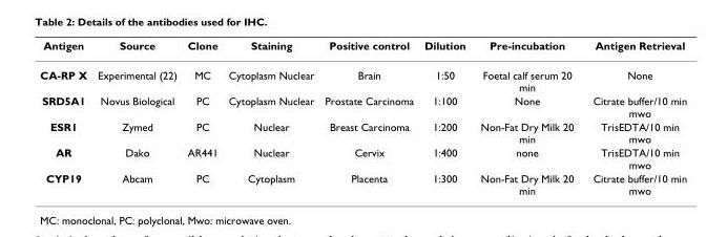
<table><thead><tr><td>Antigen</td><td>Source</td><td>Clone</td><td>Staining</td><td>Positive control</td><td>Dilution</td><td>Pre-incubation</td><td>Antigen Retrieval</td></tr></thead><tbody><tr><td>CA-RP X</td><td>Experimental (22)</td><td>MC</td><td>Cytoplasm Nuclear</td><td>Brain</td><td>1:50</td><td>Foetal calf serum 20 min</td><td>None</td></tr><tr><td>SRD5A1</td><td>Novus Biological</td><td>PC</td><td>Cytoplasm Nuclear</td><td>Prostate Carcinoma</td><td>1:100</td><td>None</td><td>Citrate buffer/10 min mwo</td></tr><tr><td>ESR1</td><td>Zymed</td><td>PC</td><td>Nuclear</td><td>Breast Carcinoma</td><td>1:200</td><td>Non-Fat Dry Milk 20 min</td><td>TrisEDTA/10 min mwo</td></tr><tr><td>AR</td><td>Dako</td><td>AR441</td><td>Nuclear</td><td>Cervix</td><td>1:400</td><td>none</td><td>TrisEDTA/10 min mwo</td></tr><tr><td>CYP19</td><td>Abcam</td><td>PC</td><td>Cytoplasm</td><td>Placenta</td><td>1:300</td><td>Non-Fat Dry Milk 20 min</td><td>Citrate buffer/10 min mwo</td></tr></tbody></table>